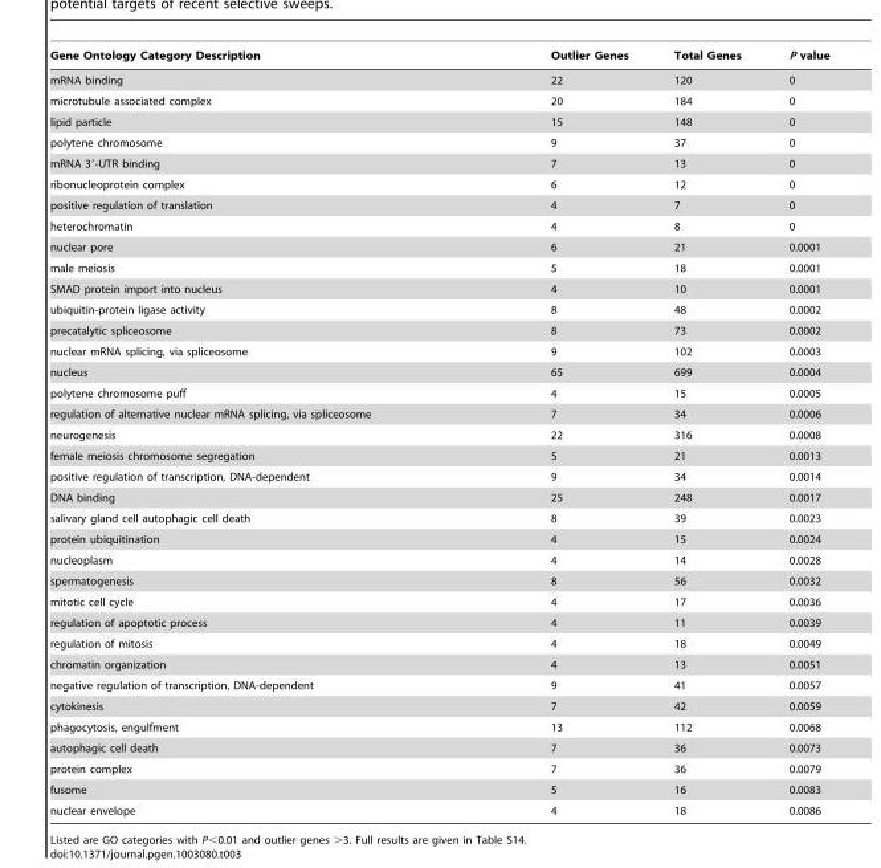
<table><thead><tr><td>Gene Ontology Category Description</td><td>Outlier Genes</td><td>Total Genes</td><td>P value</td></tr></thead><tbody><tr><td>mRNA binding</td><td>22</td><td>120</td><td>0</td></tr><tr><td>microtubule associated complex</td><td>20</td><td>184</td><td>0</td></tr><tr><td>lipid particle</td><td>15</td><td>148</td><td>0</td></tr><tr><td>polytene chromosome</td><td>9</td><td>37</td><td>0</td></tr><tr><td>mRNA 3′-UTR binding</td><td>7</td><td>13</td><td>0</td></tr><tr><td>ribonucleoprotein complex</td><td>6</td><td>12</td><td>0</td></tr><tr><td>positive regulation of translation</td><td>4</td><td>7</td><td>0</td></tr><tr><td>heterochromatin</td><td>4</td><td>8</td><td>0</td></tr><tr><td>nuclear pore</td><td>6</td><td>21</td><td>0.0001</td></tr><tr><td>male meiosis</td><td>5</td><td>18</td><td>0.0001</td></tr><tr><td>SMAD protein import into nucleus</td><td>4</td><td>10</td><td>0.0001</td></tr><tr><td>ubiquitin-protein ligase activity</td><td>8</td><td>48</td><td>0.0002</td></tr><tr><td>precatalytic spliceosome</td><td>8</td><td>73</td><td>0.0002</td></tr><tr><td>nuclear mRNA splicing, via spliceosome</td><td>9</td><td>102</td><td>0.0003</td></tr><tr><td>nucleus</td><td>65</td><td>699</td><td>0.0004</td></tr><tr><td>polytene chromosome puff</td><td>4</td><td>15</td><td>0.0005</td></tr><tr><td>regulation of alternative nuclear mRNA splicing, via spliceosome</td><td>7</td><td>34</td><td>0.0006</td></tr><tr><td>neurogenesis</td><td>22</td><td>316</td><td>0.0008</td></tr><tr><td>female meiosis chromosome segregation</td><td>5</td><td>21</td><td>0.0013</td></tr><tr><td>positive regulation of transcription, DNA-dependent</td><td>9</td><td>34</td><td>0.0014</td></tr><tr><td>DNA binding</td><td>25</td><td>248</td><td>0.0017</td></tr><tr><td>salivary gland cell autophagic cell death</td><td>8</td><td>39</td><td>0.0023</td></tr><tr><td>protein ubiquitination</td><td>4</td><td>15</td><td>0.0024</td></tr><tr><td>nucleoplasm</td><td>4</td><td>14</td><td>0.0028</td></tr><tr><td>spermatogenesis</td><td>8</td><td>56</td><td>0.0032</td></tr><tr><td>mitotic cell cycle</td><td>4</td><td>17</td><td>0.0036</td></tr><tr><td>regulation of apoptotic process</td><td>4</td><td>11</td><td>0.0039</td></tr><tr><td>regulation of mitosis</td><td>4</td><td>18</td><td>0.0049</td></tr><tr><td>chromatin organization</td><td>4</td><td>13</td><td>0.0051</td></tr><tr><td>negative regulation of transcription, DNA-dependent</td><td>9</td><td>41</td><td>0.0057</td></tr><tr><td>cytokinesis</td><td>7</td><td>42</td><td>0.0059</td></tr><tr><td>phagocytosis, engulfment</td><td>13</td><td>112</td><td>0.0068</td></tr><tr><td>autophagic cell death</td><td>7</td><td>36</td><td>0.0073</td></tr><tr><td>protein complex</td><td>7</td><td>36</td><td>0.0079</td></tr><tr><td>fusome</td><td>5</td><td>16</td><td>0.0083</td></tr><tr><td>nuclear envelope</td><td>4</td><td>18</td><td>0.0086</td></tr></tbody></table>